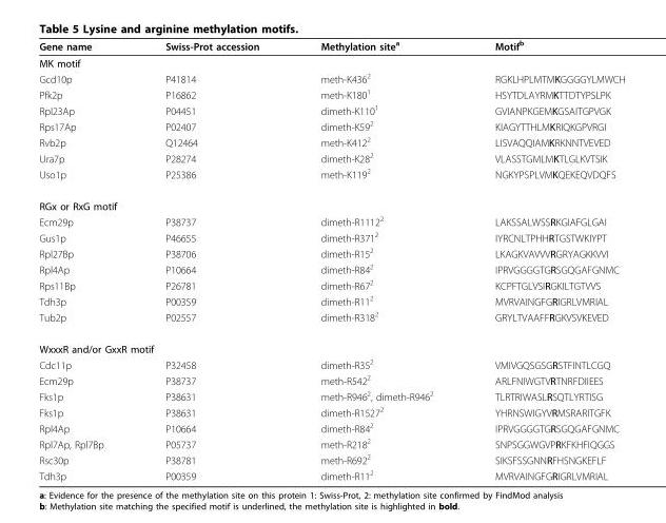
<table><thead><tr><td>Gene name</td><td>Swiss-Prot accession</td><td>Methylation site<sup>a</sup></td><td>Motif<sup>b</sup></td></tr></thead><tbody><tr><td colspan="4">MK motif</td></tr><tr><td>Gcd10p</td><td>P41814</td><td>meth-K436<sup>2</sup></td><td>RGKLHPLMTMKGGGGYLMWCH</td></tr><tr><td>Pfk2p</td><td>P16862</td><td>meth-K180<sup>1</sup></td><td>HSYTDLAYRMKTTDTYPSLPK</td></tr><tr><td>Rpl23Ap</td><td>P04451</td><td>dimeth-K110<sup>1</sup></td><td>GVIANPKGEMKGSAITGPVGK</td></tr><tr><td>Rps17Ap</td><td>P02407</td><td>dimeth-K59<sup>2</sup></td><td>KIAGYTTHLMKRIQKGPVRGI</td></tr><tr><td>Rvb2p</td><td>Q12464</td><td>meth-K412<sup>2</sup></td><td>LISVAQQIAMKRKNNTVEVED</td></tr><tr><td>Ura7p</td><td>P28274</td><td>dimeth-K28<sup>2</sup></td><td>VLASSTGMLMKTLGLKVTSIK</td></tr><tr><td>Uso1p</td><td>P25386</td><td>meth-K119<sup>2</sup></td><td>NGKYPSPLVMKQEKEQVDQFS</td></tr><tr><td colspan="4">RGx or RxG motif</td></tr><tr><td>Ecm29p</td><td>P38737</td><td>dimeth-R1112<sup>2</sup></td><td>LAKSSALWSSRKGIAFGLGAI</td></tr><tr><td>Gus1p</td><td>P46655</td><td>dimeth-R371<sup>2</sup></td><td>IYRCNLTPHHRTGSTWKIYPT</td></tr><tr><td>Rpl27Bp</td><td>P38706</td><td>dimeth-R15<sup>2</sup></td><td>LKAGKVAVVVRGRYAGKKVVI</td></tr><tr><td>Rpl4Ap</td><td>P10664</td><td>dimeth-R84<sup>2</sup></td><td>IPRVGGGGTGRSGQGAFGNMC</td></tr><tr><td>Rps11Bp</td><td>P26781</td><td>dimeth-R67<sup>2</sup></td><td>KCPFTGLVSIRGKILTGTVVS</td></tr><tr><td>Tdh3p</td><td>P00359</td><td>dimeth-R11<sup>2</sup></td><td>MVRVAINGFGRIGRLVMRIAL</td></tr><tr><td>Tub2p</td><td>P02557</td><td>dimeth-R318<sup>2</sup></td><td>GRYLTVAAFFRGKVSVKEVED</td></tr><tr><td colspan="4">WxxxR and/or GxxR motif</td></tr><tr><td>Cdc11p</td><td>P32458</td><td>dimeth-R35<sup>2</sup></td><td>VMIVGQSGSGRSTFINTLCGQ</td></tr><tr><td>Ecm29p</td><td>P38737</td><td>meth-R542<sup>2</sup></td><td>ARLFNIWGTVRTNRFDIIEES</td></tr><tr><td>Fks1p</td><td>P38631</td><td>meth-R946<sup>2</sup>, dimeth-R946<sup>2</sup></td><td>TLRTRIWASLRSQTLYRTISG</td></tr><tr><td>Fks1p</td><td>P38631</td><td>dimeth-R1527<sup>2</sup></td><td>YHRNSWIGYVRMSRARITGFK</td></tr><tr><td>Rpl4Ap</td><td>P10664</td><td>dimeth-R84<sup>2</sup></td><td>IPRVGGGGTGRSGQGAFGNMC</td></tr><tr><td>Rpl7Ap, Rpl7Bp</td><td>P05737</td><td>meth-R218<sup>2</sup></td><td>SNPSGGWGVPRKFKHFIQGGS</td></tr><tr><td>Rsc30p</td><td>P38781</td><td>meth-R692<sup>2</sup></td><td>SIKSFSSGNNRFHSNGKEFLF</td></tr><tr><td>Tdh3p</td><td>P00359</td><td>dimeth-R11<sup>2</sup></td><td>MVRVAINGFGRIGRLVMRIAL</td></tr></tbody></table>